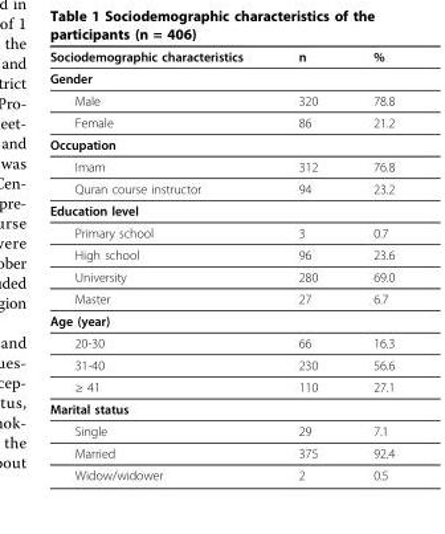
<table><thead><tr><td>Sociodemographic characteristics</td><td>n</td><td>%</td></tr></thead><tbody><tr><td colspan="3">Gender</td></tr><tr><td>Male</td><td>320</td><td>78.8</td></tr><tr><td>Female</td><td>86</td><td>21.2</td></tr><tr><td colspan="3">Occupation</td></tr><tr><td>Imam</td><td>312</td><td>76.8</td></tr><tr><td>Quran course instructor</td><td>94</td><td>23.2</td></tr><tr><td colspan="3">Education level</td></tr><tr><td>Primary school</td><td>3</td><td>0.7</td></tr><tr><td>High school</td><td>96</td><td>23.6</td></tr><tr><td>University</td><td>280</td><td>69.0</td></tr><tr><td>Master</td><td>27</td><td>6.7</td></tr><tr><td colspan="3">Age (year)</td></tr><tr><td>20-30</td><td>66</td><td>16.3</td></tr><tr><td>31-40</td><td>230</td><td>56.6</td></tr><tr><td>≥ 41</td><td>110</td><td>27.1</td></tr><tr><td colspan="3">Marital status</td></tr><tr><td>Single</td><td>29</td><td>7.1</td></tr><tr><td>Married</td><td>375</td><td>92.4</td></tr><tr><td>Widow/widower</td><td>2</td><td>0.5</td></tr></tbody></table>